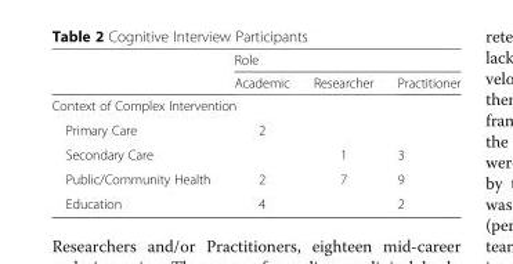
<table><thead><tr><td rowspan="2"></td><td colspan="3">Role</td></tr><tr><td>Academic</td><td>Researcher</td><td>Practitioner</td></tr></thead><tbody><tr><td colspan="4">Context of Complex Intervention</td></tr><tr><td>Primary Care</td><td>2</td><td></td><td></td></tr><tr><td>Secondary Care</td><td></td><td>1</td><td>3</td></tr><tr><td>Public/Community Health</td><td>2</td><td>7</td><td>9</td></tr><tr><td>Education</td><td>4</td><td></td><td>2</td></tr></tbody></table>